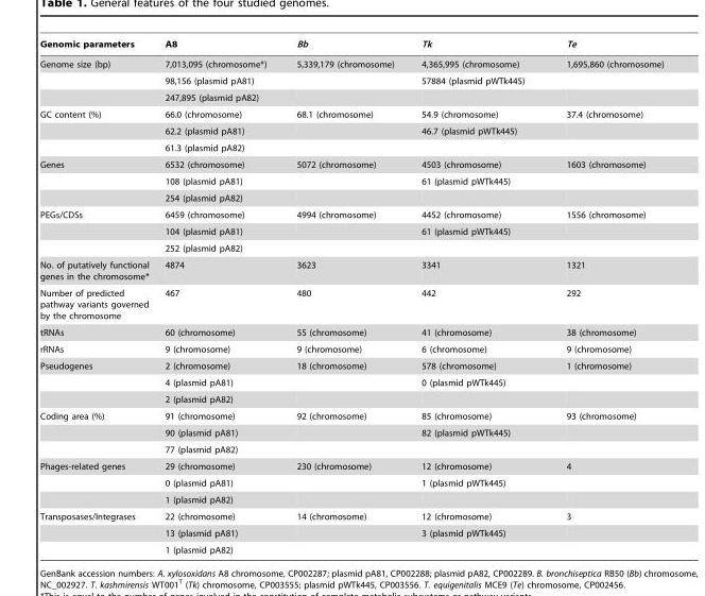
<table><thead><tr><td>Genomic parameters</td><td>A8</td><td>Bb</td><td>Tk</td><td>Te</td></tr></thead><tbody><tr><td rowspan="3">Genome size (bp)</td><td>7,013,095 (chromosome*)</td><td>5,339,179 (chromosome)</td><td>4,365,995 (chromosome)</td><td>1,695,860 (chromosome)</td></tr><tr><td>98,156 (plasmid pA81)</td><td></td><td>57884 (plasmid pWTk445)</td><td></td></tr><tr><td>247,895 (plasmid pA82)</td><td></td><td></td><td></td></tr><tr><td rowspan="3">GC content (%)</td><td>66.0 (chromosome)</td><td>68.1 (chromosome)</td><td>54.9 (chromosome)</td><td>37.4 (chromosome)</td></tr><tr><td>62.2 (plasmid pA81)</td><td></td><td>46.7 (plasmid pWTk445)</td><td></td></tr><tr><td>61.3 (plasmid pA82)</td><td></td><td></td><td></td></tr><tr><td rowspan="3">Genes</td><td>6532 (chromosome)</td><td>5072 (chromosome)</td><td>4503 (chromosome)</td><td>1603 (chromosome)</td></tr><tr><td>108 (plasmid pA81)</td><td></td><td>61 (plasmid pWTk445)</td><td></td></tr><tr><td>254 (plasmid pA82)</td><td></td><td></td><td></td></tr><tr><td rowspan="3">PEGs/CDSs</td><td>6459 (chromosome)</td><td>4994 (chromosome)</td><td>4452 (chromosome)</td><td>1556 (chromosome)</td></tr><tr><td>104 (plasmid pA81)</td><td></td><td>61 (plasmid pWTk445)</td><td></td></tr><tr><td>252 (plasmid pA82)</td><td></td><td></td><td></td></tr><tr><td>No. of putatively functional genes in the chromosome*</td><td>4874</td><td>3623</td><td>3341</td><td>1321</td></tr><tr><td>Number of predicted pathway variants governed by the chromosome</td><td>467</td><td>480</td><td>442</td><td>292</td></tr><tr><td>tRNAs</td><td>60 (chromosome)</td><td>55 (chromosome)</td><td>41 (chromosome)</td><td>38 (chromosome)</td></tr><tr><td>rRNAs</td><td>9 (chromosome)</td><td>9 (chromosome)</td><td>6 (chromosome)</td><td>9 (chromosome)</td></tr><tr><td rowspan="3">Pseudogenes</td><td>2 (chromosome)</td><td>18 (chromosome)</td><td>578 (chromosome)</td><td>1 (chromosome)</td></tr><tr><td>4 (plasmid pA81)</td><td></td><td>0 (plasmid pWTk445)</td><td></td></tr><tr><td>2 (plasmid pA82)</td><td></td><td></td><td></td></tr><tr><td rowspan="3">Coding area (%)</td><td>91 (chromosome)</td><td>92 (chromosome)</td><td>85 (chromosome)</td><td>93 (chromosome)</td></tr><tr><td>90 (plasmid pA81)</td><td></td><td>82 (plasmid pWTk445)</td><td></td></tr><tr><td>77 (plasmid pA82)</td><td></td><td></td><td></td></tr><tr><td rowspan="3">Phages-related genes</td><td>29 (chromosome)</td><td>230 (chromosome)</td><td>12 (chromosome)</td><td>4</td></tr><tr><td>0 (plasmid pA81)</td><td></td><td>1 (plasmid pWTk445)</td><td></td></tr><tr><td>1 (plasmid pA82)</td><td></td><td></td><td></td></tr><tr><td rowspan="3">Transposases/Integrases</td><td>22 (chromosome)</td><td>14 (chromosome)</td><td>12 (chromosome)</td><td>3</td></tr><tr><td>13 (plasmid pA81)</td><td></td><td>3 (plasmid pWTk445)</td><td></td></tr><tr><td>1 (plasmid pA82)</td><td></td><td></td><td></td></tr></tbody></table>